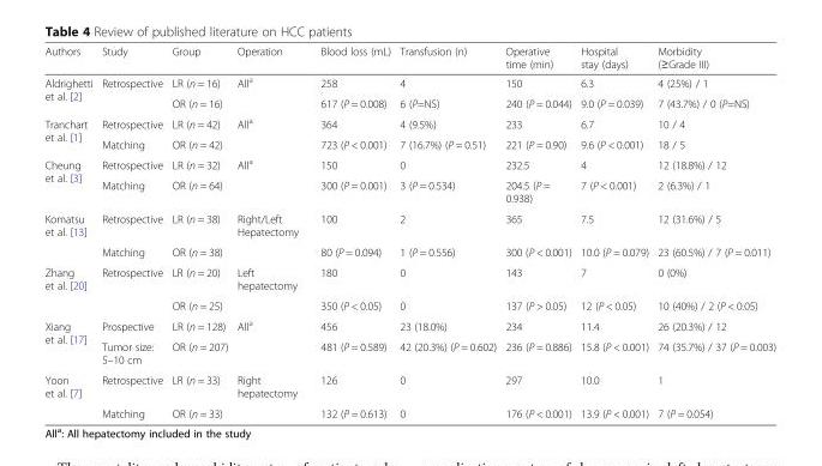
<table><thead><tr><td>Authors</td><td>Study</td><td>Group</td><td>Operation</td><td>Blood loss (mL)</td><td>Transfusion (n)</td><td>Operative time (min)</td><td>Hospital stay (days)</td><td>Morbidity (≥Grade III)</td></tr></thead><tbody><tr><td rowspan="2">Aldrighetti et al. [2]</td><td>Retrospective</td><td>LR (n = 16)</td><td>All<sup>a</sup></td><td>258</td><td>4</td><td>150</td><td>6.3</td><td>4 (25%) / 1</td></tr><tr><td></td><td>OR (n = 16)</td><td></td><td>617 (P = 0.008)</td><td>6 (P=NS)</td><td>240 (P = 0.044)</td><td>9.0 (P = 0.039)</td><td>7 (43.7%) / 0 (P=NS)</td></tr><tr><td rowspan="2">Tranchart et al. [1]</td><td>Retrospective</td><td>LR (n = 42)</td><td>All<sup>a</sup></td><td>364</td><td>4 (9.5%)</td><td>233</td><td>6.7</td><td>10 / 4</td></tr><tr><td>Matching</td><td>OR (n = 42)</td><td></td><td>723 (P &lt; 0.001)</td><td>7 (16.7%) (P = 0.51)</td><td>221 (P = 0.90)</td><td>9.6 (P &lt; 0.001)</td><td>18 / 5</td></tr><tr><td rowspan="2">Cheung et al. [3]</td><td>Retrospective</td><td>LR (n = 32)</td><td>All<sup>a</sup></td><td>150</td><td>0</td><td>232.5</td><td>4</td><td>12 (18.8%) / 12</td></tr><tr><td>Matching</td><td>OR (n = 64)</td><td></td><td>300 (P = 0.001)</td><td>3 (P = 0.534)</td><td>204.5 (P = 0.938)</td><td>7 (P &lt; 0.001)</td><td>2 (6.3%) / 1</td></tr><tr><td rowspan="2">Komatsu et al. [13]</td><td>Retrospective</td><td>LR (n = 38)</td><td>Right/Left Hepatectomy</td><td>100</td><td>2</td><td>365</td><td>7.5</td><td>12 (31.6%) / 5</td></tr><tr><td>Matching</td><td>OR (n = 38)</td><td></td><td>80 (P = 0.094)</td><td>1 (P = 0.556)</td><td>300 (P &lt; 0.001)</td><td>10.0 (P = 0.079)</td><td>23 (60.5%) / 7 (P = 0.011)</td></tr><tr><td rowspan="2">Zhang et al. [20]</td><td>Retrospective</td><td>LR (n = 20)</td><td>Left hepatectomy</td><td>180</td><td>0</td><td>143</td><td>7</td><td>0 (0%)</td></tr><tr><td></td><td>OR (n = 25)</td><td></td><td>350 (P &lt; 0.05)</td><td>0</td><td>137 (P &gt; 0.05)</td><td>12 (P &lt; 0.05)</td><td>10 (40%) / 2 (P &lt; 0.05)</td></tr><tr><td rowspan="2">Xiang et al. [17]</td><td>Prospective</td><td>LR (n = 128)</td><td>All<sup>a</sup></td><td>456</td><td>23 (18.0%)</td><td>234</td><td>11.4</td><td>26 (20.3%) / 12</td></tr><tr><td>Tumor size: 5–10 cm</td><td>OR (n = 207)</td><td></td><td>481 (P = 0.589)</td><td>42 (20.3%) (P = 0.602)</td><td>236 (P = 0.886)</td><td>15.8 (P &lt; 0.001)</td><td>74 (35.7%) / 37 (P = 0.003)</td></tr><tr><td rowspan="2">Yoon et al. [7]</td><td>Retrospective</td><td>LR (n = 33)</td><td>Right hepatectomy</td><td>126</td><td>0</td><td>297</td><td>10.0</td><td>1</td></tr><tr><td>Matching</td><td>OR (n = 33)</td><td></td><td>132 (P = 0.613)</td><td>0</td><td>176 (P &lt; 0.001)</td><td>13.9 (P &lt; 0.001)</td><td>7 (P = 0.054)</td></tr></tbody></table>